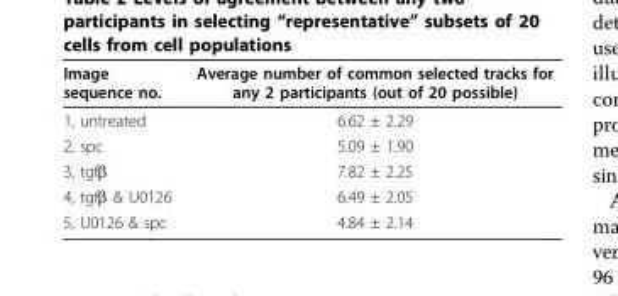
<table><thead><tr><td>Image sequence no.</td><td>Average number of common selected tracks for any 2 participants (out of 20 possible)</td></tr></thead><tbody><tr><td>1, untreated</td><td>6.62 ± 2.29</td></tr><tr><td>2, spc</td><td>5.09 ± 1.90</td></tr><tr><td>3, tgfβ</td><td>7.82 ± 2.25</td></tr><tr><td>4, tgfβ &amp; U0126</td><td>6.49 ± 2.05</td></tr><tr><td>5, U0126 &amp; spc</td><td>4.84 ± 2.14</td></tr></tbody></table>